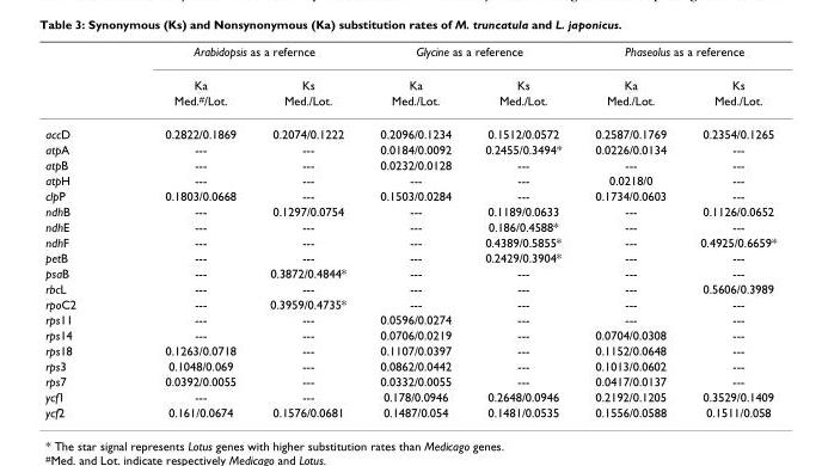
<table><thead><tr><td rowspan="3"></td><td colspan="2">Arabidopsis as a refernce</td><td colspan="2">Glycine as a reference</td><td colspan="2">Phaseolus as a reference</td></tr><tr><td rowspan="2">Ka Med.<sup>#</sup>/Lot.</td><td rowspan="2">Ks Med./Lot.</td><td rowspan="2">Ka Med./Lot.</td><td rowspan="2">Ks Med./Lot.</td><td rowspan="2">Ka Med./Lot.</td><td rowspan="2">Ks Med./Lot.</td></tr><tr></tr></thead><tbody><tr><td>accD</td><td>0.2822/0.1869</td><td>0.2074/0.1222</td><td>0.2096/0.1234</td><td>0.1512/0.0572</td><td>0.2587/0.1769</td><td>0.2354/0.1265</td></tr><tr><td>atpA</td><td>---</td><td>---</td><td>0.0184/0.0092</td><td>0.2455/0.3494*</td><td>0.0226/0.0134</td><td>---</td></tr><tr><td>atpB</td><td>---</td><td>---</td><td>0.0232/0.0128</td><td>---</td><td>---</td><td>---</td></tr><tr><td>atpH</td><td>---</td><td>---</td><td>---</td><td>---</td><td>0.0218/0</td><td>---</td></tr><tr><td>clpP</td><td>0.1803/0.0668</td><td>---</td><td>0.1503/0.0284</td><td>---</td><td>0.1734/0.0603</td><td>---</td></tr><tr><td>ndhB</td><td>---</td><td>0.1297/0.0754</td><td>---</td><td>0.1189/0.0633</td><td>---</td><td>0.1126/0.0652</td></tr><tr><td>ndhE</td><td>---</td><td>---</td><td>---</td><td>0.186/0.4588*</td><td>---</td><td>---</td></tr><tr><td>ndhF</td><td>---</td><td>---</td><td>---</td><td>0.4389/0.5855*</td><td>---</td><td>0.4925/0.6659*</td></tr><tr><td>petB</td><td>---</td><td>---</td><td>---</td><td>0.2429/0.3904*</td><td>---</td><td>---</td></tr><tr><td>psaB</td><td>---</td><td>0.3872/0.4844*</td><td>---</td><td>---</td><td>---</td><td>---</td></tr><tr><td>rbcL</td><td>---</td><td>---</td><td>---</td><td>---</td><td>---</td><td>0.5606/0.3989</td></tr><tr><td>rpoC2</td><td>---</td><td>0.3959/0.4735*</td><td>---</td><td>---</td><td>---</td><td>---</td></tr><tr><td>rps11</td><td>---</td><td>---</td><td>0.0596/0.0274</td><td>---</td><td>---</td><td>---</td></tr><tr><td>rps14</td><td>---</td><td>---</td><td>0.0706/0.0219</td><td>---</td><td>0.0704/0.0308</td><td>---</td></tr><tr><td>rps18</td><td>0.1263/0.0718</td><td>---</td><td>0.1107/0.0397</td><td>---</td><td>0.1152/0.0648</td><td>---</td></tr><tr><td>rps3</td><td>0.1048/0.069</td><td>---</td><td>0.0862/0.0442</td><td>---</td><td>0.1013/0.0602</td><td>---</td></tr><tr><td>rps7</td><td>0.0392/0.0055</td><td>---</td><td>0.0332/0.0055</td><td>---</td><td>0.0417/0.0137</td><td>---</td></tr><tr><td>ycf1</td><td>---</td><td>---</td><td>0.178/0.0946</td><td>0.2648/0.0946</td><td>0.2192/0.1205</td><td>0.3529/0.1409</td></tr><tr><td>ycf2</td><td>0.161/0.0674</td><td>0.1576/0.0681</td><td>0.1487/0.054</td><td>0.1481/0.0535</td><td>0.1556/0.0588</td><td>0.1511/0.058</td></tr></tbody></table>